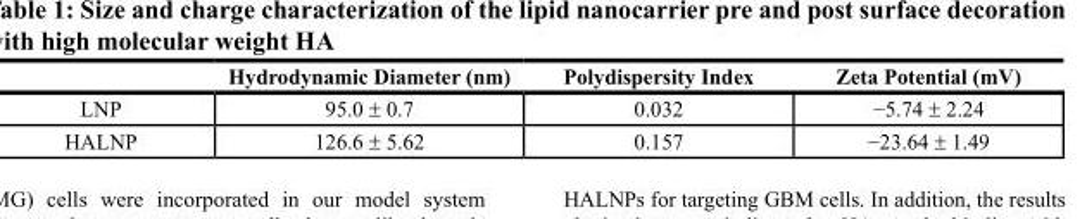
<table><thead><tr><td></td><td>Hydrodynamic Diameter (nm)</td><td>Polydispersity Index</td><td>Zeta Potential (mV)</td></tr></thead><tbody><tr><td>LNP</td><td>95.0 ± 0.7</td><td>0.032</td><td>−5.74 ± 2.24</td></tr><tr><td>HALNP</td><td>126.6 ± 5.62</td><td>0.157</td><td>−23.64 ± 1.49</td></tr></tbody></table>